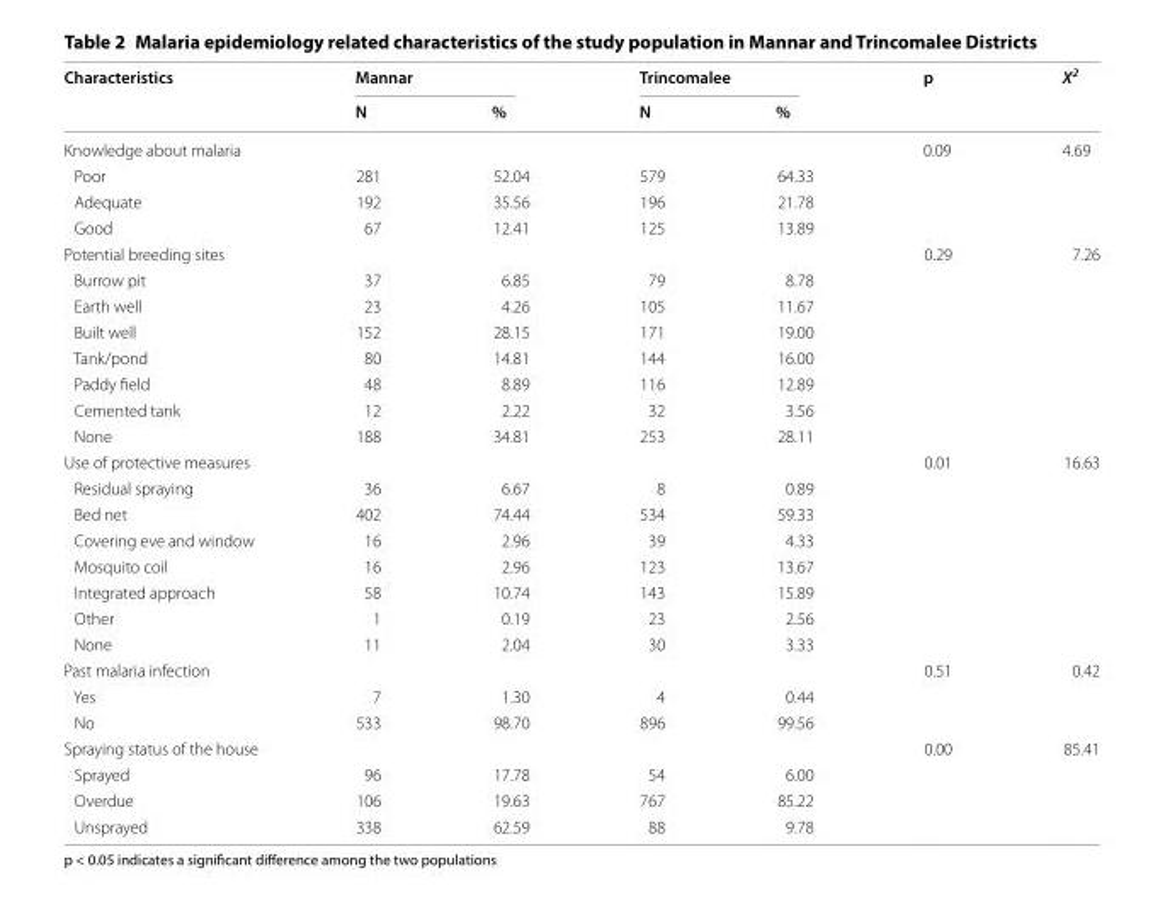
<table><thead><tr><td rowspan="2">Characteristics</td><td colspan="2">Mannar</td><td colspan="2">Trincomalee</td><td rowspan="2">p</td><td rowspan="2">X<sup>2</sup></td></tr><tr><td>N</td><td>%</td><td>N</td><td>%</td></tr></thead><tbody><tr><td colspan="5">Knowledge about malaria</td><td rowspan="4">0.09</td><td rowspan="4">4.69</td></tr><tr><td>Poor</td><td>281</td><td>52.04</td><td>579</td><td>64.33</td></tr><tr><td>Adequate</td><td>192</td><td>35.56</td><td>196</td><td>21.78</td></tr><tr><td>Good</td><td>67</td><td>12.41</td><td>125</td><td>13.89</td></tr><tr><td colspan="5">Potential breeding sites</td><td rowspan="8">0.29</td><td rowspan="8">7.26</td></tr><tr><td>Burrow pit</td><td>37</td><td>6.85</td><td>79</td><td>8.78</td></tr><tr><td>Earth well</td><td>23</td><td>4.26</td><td>105</td><td>11.67</td></tr><tr><td>Built well</td><td>152</td><td>28.15</td><td>171</td><td>19.00</td></tr><tr><td>Tank/pond</td><td>80</td><td>14.81</td><td>144</td><td>16.00</td></tr><tr><td>Paddy field</td><td>48</td><td>8.89</td><td>116</td><td>12.89</td></tr><tr><td>Cemented tank</td><td>12</td><td>2.22</td><td>32</td><td>3.56</td></tr><tr><td>None</td><td>188</td><td>34.81</td><td>253</td><td>28.11</td></tr><tr><td colspan="5">Use of protective measures</td><td rowspan="8">0.01</td><td rowspan="8">16.63</td></tr><tr><td>Residual spraying</td><td>36</td><td>6.67</td><td>8</td><td>0.89</td></tr><tr><td>Bed net</td><td>402</td><td>74.44</td><td>534</td><td>59.33</td></tr><tr><td>Covering eve and window</td><td>16</td><td>2.96</td><td>39</td><td>4.33</td></tr><tr><td>Mosquito coil</td><td>16</td><td>2.96</td><td>123</td><td>13.67</td></tr><tr><td>Integrated approach</td><td>58</td><td>10.74</td><td>143</td><td>15.89</td></tr><tr><td>Other</td><td>1</td><td>0.19</td><td>23</td><td>2.56</td></tr><tr><td>None</td><td>11</td><td>2.04</td><td>30</td><td>3.33</td></tr><tr><td colspan="5">Past malaria infection</td><td rowspan="3">0.51</td><td rowspan="3">0.42</td></tr><tr><td>Yes</td><td>7</td><td>1.30</td><td>4</td><td>0.44</td></tr><tr><td>No</td><td>533</td><td>98.70</td><td>896</td><td>99.56</td></tr><tr><td colspan="5">Spraying status of the house</td><td rowspan="4">0.00</td><td rowspan="4">85.41</td></tr><tr><td>Sprayed</td><td>96</td><td>17.78</td><td>54</td><td>6.00</td></tr><tr><td>Overdue</td><td>106</td><td>19.63</td><td>767</td><td>85.22</td></tr><tr><td>Unsprayed</td><td>338</td><td>62.59</td><td>88</td><td>9.78</td></tr></tbody></table>